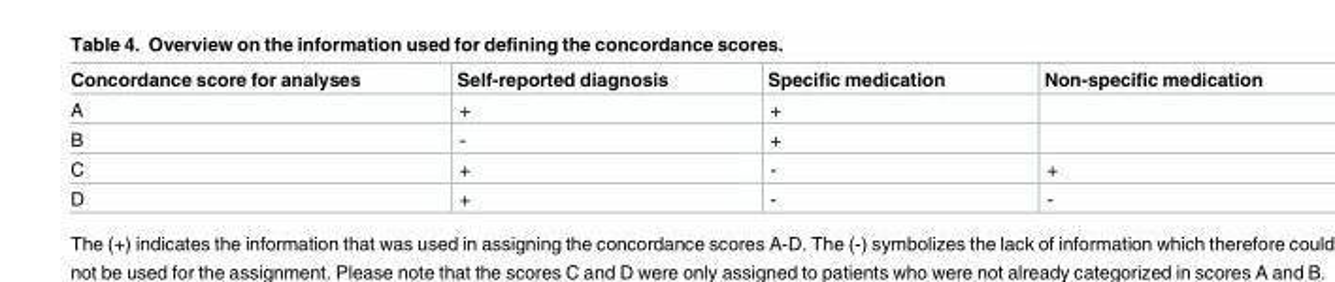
<table><thead><tr><td>Concordance score for analyses</td><td>Self-reported diagnosis</td><td>Specific medication</td><td>Non-specific medication</td></tr></thead><tbody><tr><td>A</td><td>+</td><td>+</td><td></td></tr><tr><td>B</td><td>-</td><td>+</td><td></td></tr><tr><td>C</td><td>+</td><td>-</td><td>+</td></tr><tr><td>D</td><td>+</td><td>-</td><td>-</td></tr></tbody></table>